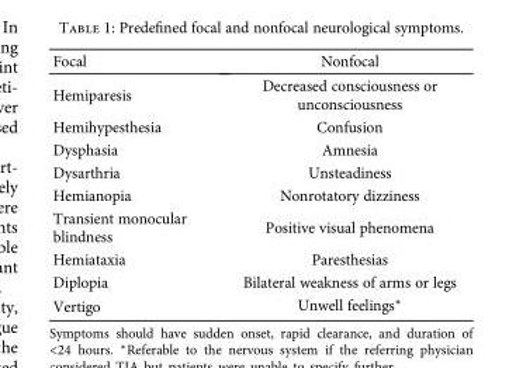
<table><thead><tr><td>Focal</td><td>Nonfocal</td></tr></thead><tbody><tr><td>Hemiparesis</td><td>Decreased consciousness or unconsciousness</td></tr><tr><td>Hemihypesthesia</td><td>Confusion</td></tr><tr><td>Dysphasia</td><td>Amnesia</td></tr><tr><td>Dysarthria</td><td>Unsteadiness</td></tr><tr><td>Hemianopia</td><td>Nonrotatory dizziness</td></tr><tr><td>Transient monocular blindness</td><td>Positive visual phenomena</td></tr><tr><td>Hemiataxia</td><td>Paresthesias</td></tr><tr><td>Diplopia</td><td>Bilateral weakness of arms or legs</td></tr><tr><td>Vertigo</td><td>Unwell feelings∗</td></tr></tbody></table>